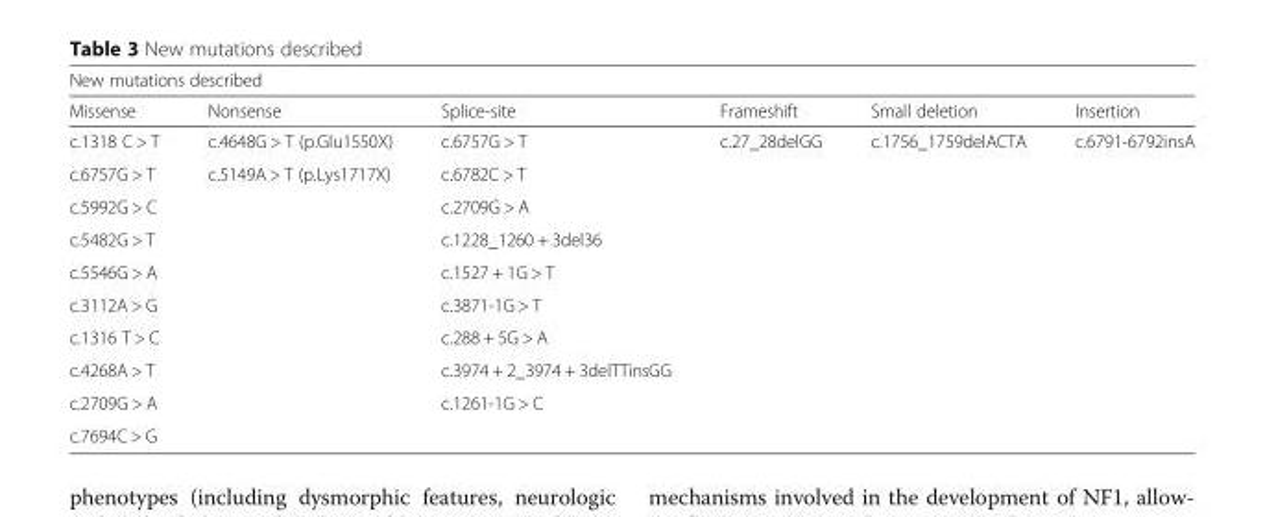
<table><thead><tr><td colspan="6">New mutations described</td></tr><tr><td>Missense</td><td>Nonsense</td><td>Splice-site</td><td>Frameshift</td><td>Small deletion</td><td>Insertion</td></tr></thead><tbody><tr><td>c.1318 C &gt; T</td><td>c.4648G &gt; T (p.Glu1550X)</td><td>c.6757G &gt; T</td><td>c.27_28delGG</td><td>c.1756_1759delACTA</td><td>c.6791-6792insA</td></tr><tr><td>c.6757G &gt; T</td><td>c.5149A &gt; T (p.Lys1717X)</td><td>c.6782C &gt; T</td><td></td><td></td><td></td></tr><tr><td>c.5992G &gt; C</td><td></td><td>c.2709G &gt; A</td><td></td><td></td><td></td></tr><tr><td>c.5482G &gt; T</td><td></td><td>c.1228_1260 + 3del36</td><td></td><td></td><td></td></tr><tr><td>c.5546G &gt; A</td><td></td><td>c.1527 + 1G &gt; T</td><td></td><td></td><td></td></tr><tr><td>c.3112A &gt; G</td><td></td><td>c.3871-1G &gt; T</td><td></td><td></td><td></td></tr><tr><td>c.1316 T &gt; C</td><td></td><td>c.288 + 5G &gt; A</td><td></td><td></td><td></td></tr><tr><td>c.4268A &gt; T</td><td></td><td>c.3974 + 2_3974 + 3delTTinsGG</td><td></td><td></td><td></td></tr><tr><td>c.2709G &gt; A</td><td></td><td>c.1261-1G &gt; C</td><td></td><td></td><td></td></tr><tr><td>c.7694C &gt; G</td><td></td><td></td><td></td><td></td><td></td></tr></tbody></table>